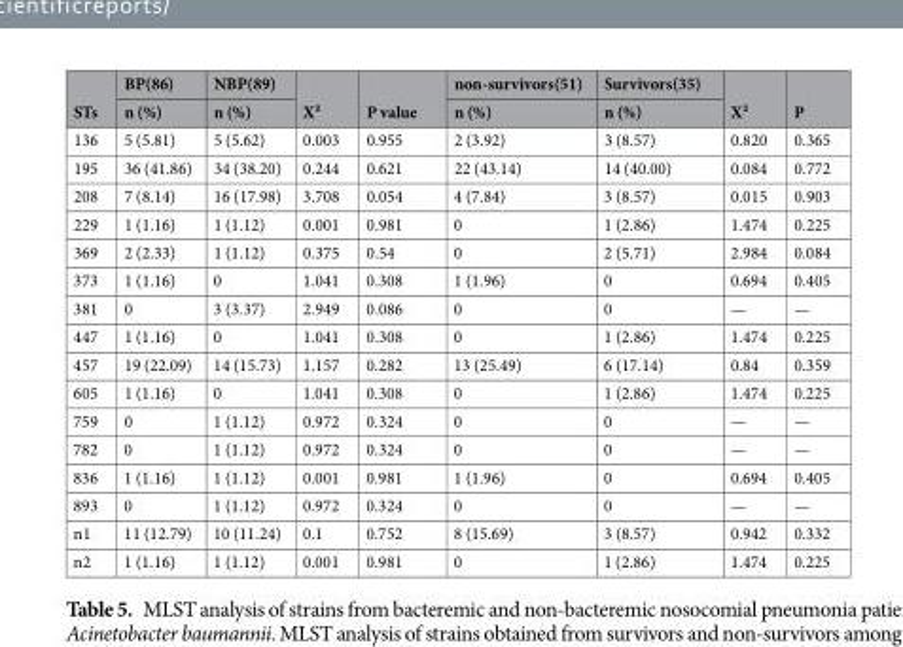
<table><thead><tr><td rowspan="2">STs</td><td rowspan="2">BP(86) n (%)</td><td rowspan="2">NBP(89) n (%)</td><td rowspan="2">X²</td><td rowspan="2">P value</td><td rowspan="2">non-survivors(51) n (%)</td><td rowspan="2">Survivors(35) n (%)</td><td rowspan="2">X²</td><td rowspan="2">P</td></tr><tr></tr></thead><tbody><tr><td>136</td><td>5 (5.81)</td><td>5 (5.62)</td><td>0.003</td><td>0.955</td><td>2 (3.92)</td><td>3 (8.57)</td><td>0.820</td><td>0.365</td></tr><tr><td>195</td><td>36 (41.86)</td><td>34 (38.20)</td><td>0.244</td><td>0.621</td><td>22 (43.14)</td><td>14 (40.00)</td><td>0.084</td><td>0.772</td></tr><tr><td>208</td><td>7 (8.14)</td><td>16 (17.98)</td><td>3.708</td><td>0.054</td><td>4 (7.84)</td><td>3 (8.57)</td><td>0.015</td><td>0.903</td></tr><tr><td>229</td><td>1 (1.16)</td><td>1 (1.12)</td><td>0.001</td><td>0.981</td><td>0</td><td>1 (2.86)</td><td>1.474</td><td>0.225</td></tr><tr><td>369</td><td>2 (2.33)</td><td>1 (1.12)</td><td>0.375</td><td>0.54</td><td>0</td><td>2 (5.71)</td><td>2.984</td><td>0.084</td></tr><tr><td>373</td><td>1 (1.16)</td><td>0</td><td>1.041</td><td>0.308</td><td>1 (1.96)</td><td>0</td><td>0.694</td><td>0.405</td></tr><tr><td>381</td><td>0</td><td>3 (3.37)</td><td>2.949</td><td>0.086</td><td>0</td><td>0</td><td>—</td><td>—</td></tr><tr><td>447</td><td>1 (1.16)</td><td>0</td><td>1.041</td><td>0.308</td><td>0</td><td>1 (2.86)</td><td>1.474</td><td>0.225</td></tr><tr><td>457</td><td>19 (22.09)</td><td>14 (15.73)</td><td>1.157</td><td>0.282</td><td>13 (25.49)</td><td>6 (17.14)</td><td>0.84</td><td>0.359</td></tr><tr><td>605</td><td>1 (1.16)</td><td>0</td><td>1.041</td><td>0.308</td><td>0</td><td>1 (2.86)</td><td>1.474</td><td>0.225</td></tr><tr><td>759</td><td>0</td><td>1 (1.12)</td><td>0.972</td><td>0.324</td><td>0</td><td>0</td><td>—</td><td>—</td></tr><tr><td>782</td><td>0</td><td>1 (1.12)</td><td>0.972</td><td>0.324</td><td>0</td><td>0</td><td>—</td><td>—</td></tr><tr><td>836</td><td>1 (1.16)</td><td>1 (1.12)</td><td>0.001</td><td>0.981</td><td>1 (1.96)</td><td>0</td><td>0.694</td><td>0.405</td></tr><tr><td>893</td><td>0</td><td>1 (1.12)</td><td>0.972</td><td>0.324</td><td>0</td><td>0</td><td>—</td><td>—</td></tr><tr><td>n1</td><td>11 (12.79)</td><td>10 (11.24)</td><td>0.1</td><td>0.752</td><td>8 (15.69)</td><td>3 (8.57)</td><td>0.942</td><td>0.332</td></tr><tr><td>n2</td><td>1 (1.16)</td><td>1 (1.12)</td><td>0.001</td><td>0.981</td><td>0</td><td>1 (2.86)</td><td>1.474</td><td>0.225</td></tr></tbody></table>